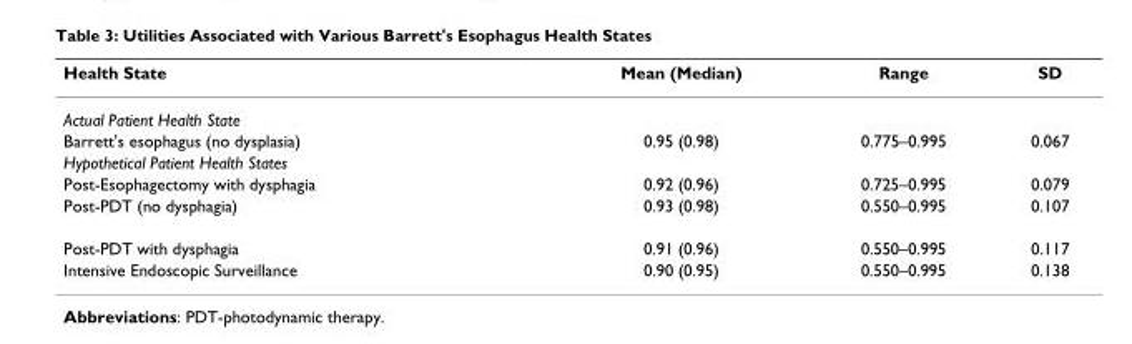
<table><thead><tr><td>Health State</td><td>Mean (Median)</td><td>Range</td><td>SD</td></tr></thead><tbody><tr><td colspan="4">Actual Patient Health State</td></tr><tr><td>Barrett&#x27;s esophagus (no dysplasia)</td><td>0.95 (0.98)</td><td>0.775–0.995</td><td>0.067</td></tr><tr><td colspan="4">Hypothetical Patient Health States</td></tr><tr><td>Post-Esophagectomy with dysphagia</td><td>0.92 (0.96)</td><td>0.725–0.995</td><td>0.079</td></tr><tr><td>Post-PDT (no dysphagia)</td><td>0.93 (0.98)</td><td>0.550–0.995</td><td>0.107</td></tr><tr><td>Post-PDT with dysphagia</td><td>0.91 (0.96)</td><td>0.550–0.995</td><td>0.117</td></tr><tr><td>Intensive Endoscopic Surveillance</td><td>0.90 (0.95)</td><td>0.550–0.995</td><td>0.138</td></tr></tbody></table>